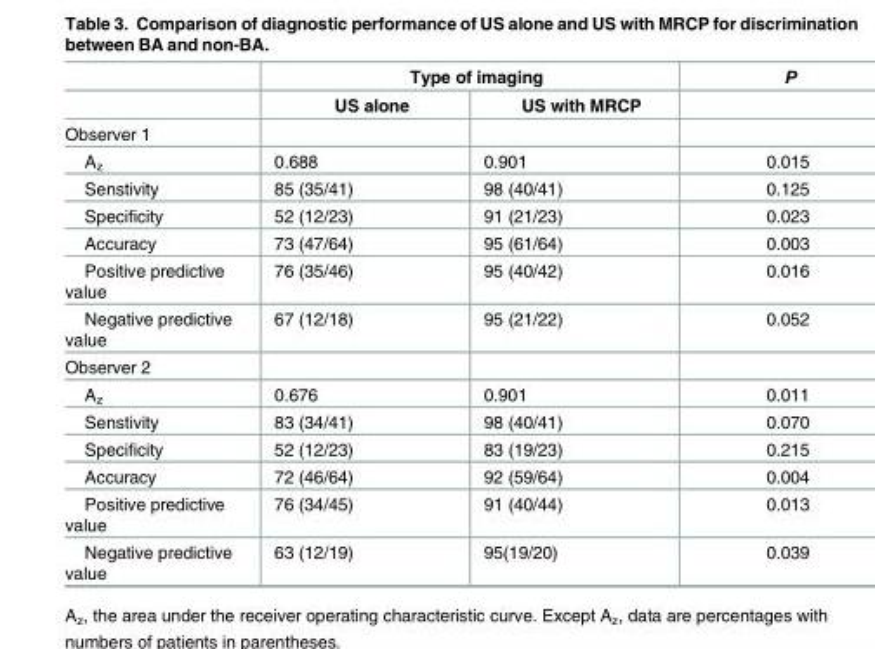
<table><thead><tr><td rowspan="2"></td><td colspan="2">Type of imaging</td><td rowspan="2">P</td></tr><tr><td>US alone</td><td>US with MRCP</td></tr></thead><tbody><tr><td colspan="4">Observer 1</td></tr><tr><td>A<sub>z</sub></td><td>0.688</td><td>0.901</td><td>0.015</td></tr><tr><td>Senstivity</td><td>85 (35/41)</td><td>98 (40/41)</td><td>0.125</td></tr><tr><td>Specificity</td><td>52 (12/23)</td><td>91 (21/23)</td><td>0.023</td></tr><tr><td>Accuracy</td><td>73 (47/64)</td><td>95 (61/64)</td><td>0.003</td></tr><tr><td>Positive predictive value</td><td>76 (35/46)</td><td>95 (40/42)</td><td>0.016</td></tr><tr><td>Negative predictive value</td><td>67 (12/18)</td><td>95 (21/22)</td><td>0.052</td></tr><tr><td colspan="4">Observer 2</td></tr><tr><td>A<sub>z</sub></td><td>0.676</td><td>0.901</td><td>0.011</td></tr><tr><td>Senstivity</td><td>83 (34/41)</td><td>98 (40/41)</td><td>0.070</td></tr><tr><td>Specificity</td><td>52 (12/23)</td><td>83 (19/23)</td><td>0.215</td></tr><tr><td>Accuracy</td><td>72 (46/64)</td><td>92 (59/64)</td><td>0.004</td></tr><tr><td>Positive predictive value</td><td>76 (34/45)</td><td>91 (40/44)</td><td>0.013</td></tr><tr><td>Negative predictive value</td><td>63 (12/19)</td><td>95(19/20)</td><td>0.039</td></tr></tbody></table>